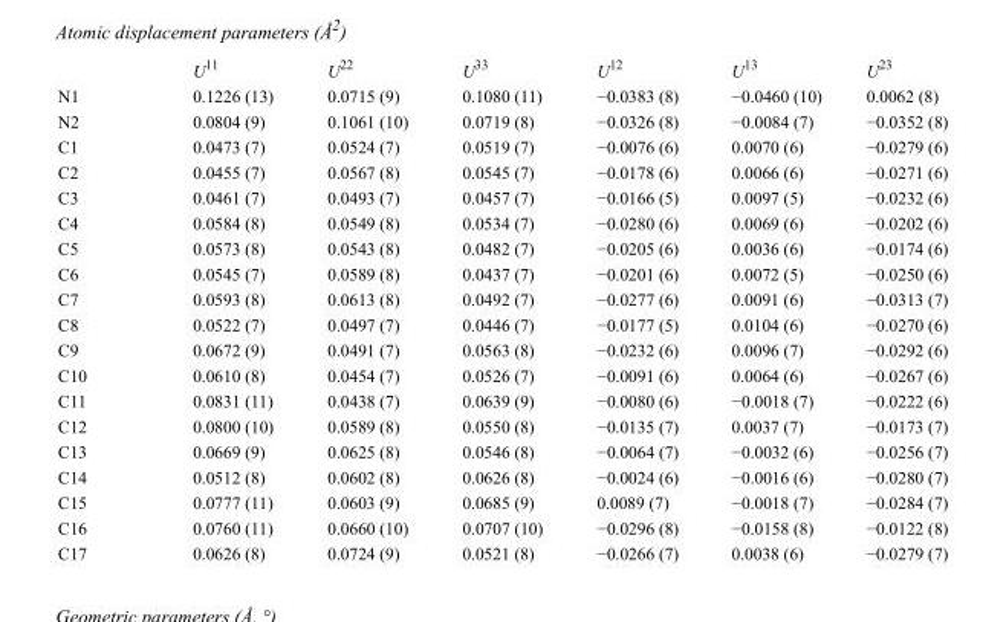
<table><thead><tr><td></td><td>U<sup>11</sup></td><td>U<sup>22</sup></td><td>U<sup>33</sup></td><td>U<sup>12</sup></td><td>U<sup>13</sup></td><td>U<sup>23</sup></td></tr></thead><tbody><tr><td>N1</td><td>0.1226 (13)</td><td>0.0715 (9)</td><td>0.1080 (11)</td><td>−0.0383 (8)</td><td>−0.0460 (10)</td><td>0.0062 (8)</td></tr><tr><td>N2</td><td>0.0804 (9)</td><td>0.1061 (10)</td><td>0.0719 (8)</td><td>−0.0326 (8)</td><td>−0.0084 (7)</td><td>−0.0352 (8)</td></tr><tr><td>C1</td><td>0.0473 (7)</td><td>0.0524 (7)</td><td>0.0519 (7)</td><td>−0.0076 (6)</td><td>0.0070 (6)</td><td>−0.0279 (6)</td></tr><tr><td>C2</td><td>0.0455 (7)</td><td>0.0567 (8)</td><td>0.0545 (7)</td><td>−0.0178 (6)</td><td>0.0066 (6)</td><td>−0.0271 (6)</td></tr><tr><td>C3</td><td>0.0461 (7)</td><td>0.0493 (7)</td><td>0.0457 (7)</td><td>−0.0166 (5)</td><td>0.0097 (5)</td><td>−0.0232 (6)</td></tr><tr><td>C4</td><td>0.0584 (8)</td><td>0.0549 (8)</td><td>0.0534 (7)</td><td>−0.0280 (6)</td><td>0.0069 (6)</td><td>−0.0202 (6)</td></tr><tr><td>C5</td><td>0.0573 (8)</td><td>0.0543 (8)</td><td>0.0482 (7)</td><td>−0.0205 (6)</td><td>0.0036 (6)</td><td>−0.0174 (6)</td></tr><tr><td>C6</td><td>0.0545 (7)</td><td>0.0589 (8)</td><td>0.0437 (7)</td><td>−0.0201 (6)</td><td>0.0072 (5)</td><td>−0.0250 (6)</td></tr><tr><td>C7</td><td>0.0593 (8)</td><td>0.0613 (8)</td><td>0.0492 (7)</td><td>−0.0277 (6)</td><td>0.0091 (6)</td><td>−0.0313 (7)</td></tr><tr><td>C8</td><td>0.0522 (7)</td><td>0.0497 (7)</td><td>0.0446 (7)</td><td>−0.0177 (5)</td><td>0.0104 (6)</td><td>−0.0270 (6)</td></tr><tr><td>C9</td><td>0.0672 (9)</td><td>0.0491 (7)</td><td>0.0563 (8)</td><td>−0.0232 (6)</td><td>0.0096 (7)</td><td>−0.0292 (6)</td></tr><tr><td>C10</td><td>0.0610 (8)</td><td>0.0454 (7)</td><td>0.0526 (7)</td><td>−0.0091 (6)</td><td>0.0064 (6)</td><td>−0.0267 (6)</td></tr><tr><td>C11</td><td>0.0831 (11)</td><td>0.0438 (7)</td><td>0.0639 (9)</td><td>−0.0080 (6)</td><td>−0.0018 (7)</td><td>−0.0222 (6)</td></tr><tr><td>C12</td><td>0.0800 (10)</td><td>0.0589 (8)</td><td>0.0550 (8)</td><td>−0.0135 (7)</td><td>0.0037 (7)</td><td>−0.0173 (7)</td></tr><tr><td>C13</td><td>0.0669 (9)</td><td>0.0625 (8)</td><td>0.0546 (8)</td><td>−0.0064 (7)</td><td>−0.0032 (6)</td><td>−0.0256 (7)</td></tr><tr><td>C14</td><td>0.0512 (8)</td><td>0.0602 (8)</td><td>0.0626 (8)</td><td>−0.0024 (6)</td><td>−0.0016 (6)</td><td>−0.0280 (7)</td></tr><tr><td>C15</td><td>0.0777 (11)</td><td>0.0603 (9)</td><td>0.0685 (9)</td><td>0.0089 (7)</td><td>−0.0018 (7)</td><td>−0.0284 (7)</td></tr><tr><td>C16</td><td>0.0760 (11)</td><td>0.0660 (10)</td><td>0.0707 (10)</td><td>−0.0296 (8)</td><td>−0.0158 (8)</td><td>−0.0122 (8)</td></tr><tr><td>C17</td><td>0.0626 (8)</td><td>0.0724 (9)</td><td>0.0521 (8)</td><td>−0.0266 (7)</td><td>0.0038 (6)</td><td>−0.0279 (7)</td></tr></tbody></table>